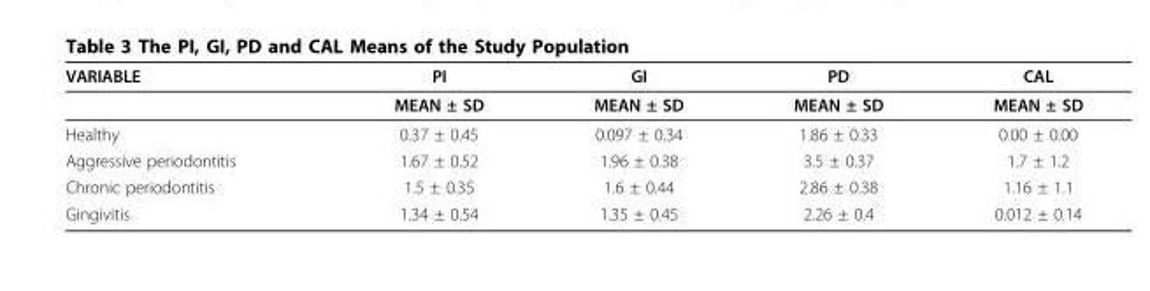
<table><thead><tr><td>VARIABLE</td><td>PI</td><td>GI</td><td>PD</td><td>CAL</td></tr></thead><tbody><tr><td></td><td>MEAN ± SD</td><td>MEAN ± SD</td><td>MEAN ± SD</td><td>MEAN ± SD</td></tr><tr><td>Healthy</td><td>0.37 ± 0.45</td><td>0.097 ± 0.34</td><td>1.86 ± 0.33</td><td>0.00 ± 0.00</td></tr><tr><td>Aggressive periodontitis</td><td>1.67 ± 0.52</td><td>1.96 ± 0.38</td><td>3.5 ± 0.37</td><td>1.7 ± 1.2</td></tr><tr><td>Chronic periodontitis</td><td>1.5 ± 0.35</td><td>1.6 ± 0.44</td><td>2.86 ± 0.38</td><td>1.16 ± 1.1</td></tr><tr><td>Gingivitis</td><td>1.34 ± 0.54</td><td>1.35 ± 0.45</td><td>2.26 ± 0.4</td><td>0.012 ± 0.14</td></tr></tbody></table>